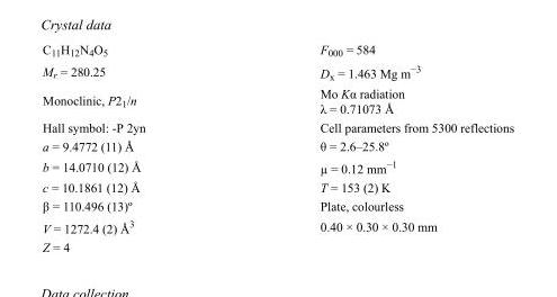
<table><tbody><tr><td>C<sub>11</sub>H<sub>12</sub>N<sub>4</sub>O<sub>5</sub></td><td>F000 = 584</td></tr><tr><td>M<sub>r</sub> = 280.25</td><td>D<sub>x</sub> = 1.463 Mg m<sup>−3</sup></td></tr><tr><td>Monoclinic, P2<sub>1</sub>/n</td><td>Mo Kα radiation λ = 0.71073 Å</td></tr><tr><td>Hall symbol: -P 2yn</td><td>Cell parameters from 5300 reflections</td></tr><tr><td>a = 9.4772 (11) Å</td><td>θ = 2.6–25.8º</td></tr><tr><td>b = 14.0710 (12) Å</td><td>µ = 0.12 mm<sup>−1</sup></td></tr><tr><td>c = 10.1861 (12) Å</td><td>T = 153 (2) K</td></tr><tr><td>β = 110.496 (13)º</td><td>Plate, colourless</td></tr><tr><td>V = 1272.4 (2) Å<sup>3</sup></td><td>0.40 × 0.30 × 0.30 mm</td></tr><tr><td>Z = 4</td><td></td></tr></tbody></table>